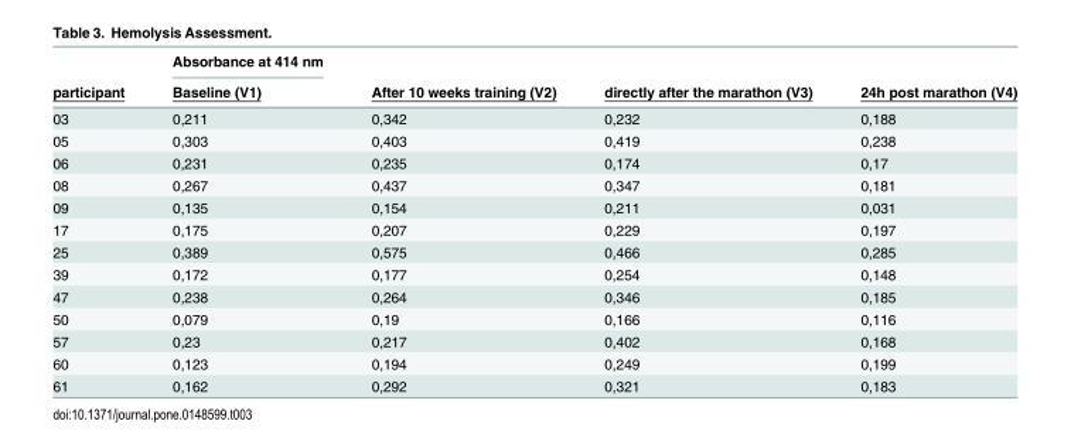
<table><thead><tr><td rowspan="2">participant</td><td rowspan="2">Absorbance at 414 nm Baseline (V1)</td><td rowspan="2">After 10 weeks training (V2)</td><td rowspan="2">directly after the marathon (V3)</td><td rowspan="2">24h post marathon (V4)</td></tr><tr></tr></thead><tbody><tr><td>03</td><td>0,211</td><td>0,342</td><td>0,232</td><td>0,188</td></tr><tr><td>05</td><td>0,303</td><td>0,403</td><td>0,419</td><td>0,238</td></tr><tr><td>06</td><td>0,231</td><td>0,235</td><td>0,174</td><td>0,17</td></tr><tr><td>08</td><td>0,267</td><td>0,437</td><td>0,347</td><td>0,181</td></tr><tr><td>09</td><td>0,135</td><td>0,154</td><td>0,211</td><td>0,031</td></tr><tr><td>17</td><td>0,175</td><td>0,207</td><td>0,229</td><td>0,197</td></tr><tr><td>25</td><td>0,389</td><td>0,575</td><td>0,466</td><td>0,285</td></tr><tr><td>39</td><td>0,172</td><td>0,177</td><td>0,254</td><td>0,148</td></tr><tr><td>47</td><td>0,238</td><td>0,264</td><td>0,346</td><td>0,185</td></tr><tr><td>50</td><td>0,079</td><td>0,19</td><td>0,166</td><td>0,116</td></tr><tr><td>57</td><td>0,23</td><td>0,217</td><td>0,402</td><td>0,168</td></tr><tr><td>60</td><td>0,123</td><td>0,194</td><td>0,249</td><td>0,199</td></tr><tr><td>61</td><td>0,162</td><td>0,292</td><td>0,321</td><td>0,183</td></tr></tbody></table>